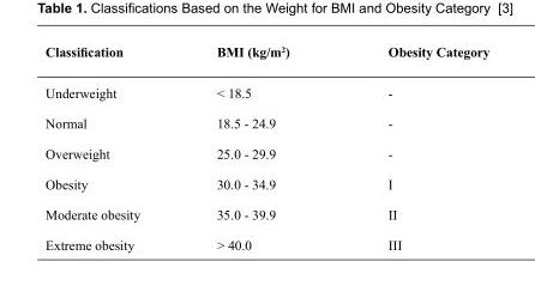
<table><thead><tr><td>Classification</td><td>BMI (kg/m<sup>2</sup>)</td><td>Obesity Category</td></tr></thead><tbody><tr><td>Underweight</td><td>&lt; 18.5</td><td>-</td></tr><tr><td>Normal</td><td>18.5 - 24.9</td><td>-</td></tr><tr><td>Overweight</td><td>25.0 - 29.9</td><td>-</td></tr><tr><td>Obesity</td><td>30.0 - 34.9</td><td>I</td></tr><tr><td>Moderate obesity</td><td>35.0 - 39.9</td><td>II</td></tr><tr><td>Extreme obesity</td><td>&gt; 40.0</td><td>III</td></tr></tbody></table>